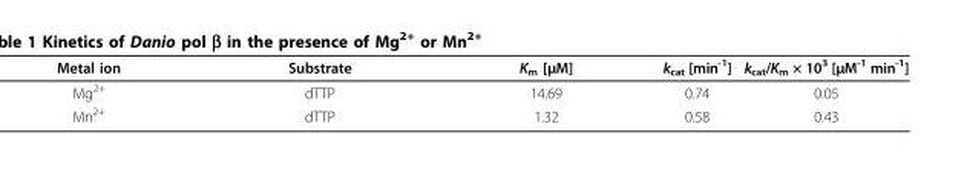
<table><thead><tr><td>Metal ion</td><td>Substrate</td><td>K<sub>m</sub> [μM]</td><td>k<sub>cat</sub> [min<sup>-1</sup>]</td><td>k<sub>cat</sub>/K<sub>m</sub> × 10<sup>3</sup> [μM<sup>-1</sup> min<sup>-1</sup>]</td></tr></thead><tbody><tr><td>Mg<sup>2+</sup></td><td>dTTP</td><td>14.69</td><td>0.74</td><td>0.05</td></tr><tr><td>Mn<sup>2+</sup></td><td>dTTP</td><td>1.32</td><td>0.58</td><td>0.43</td></tr></tbody></table>